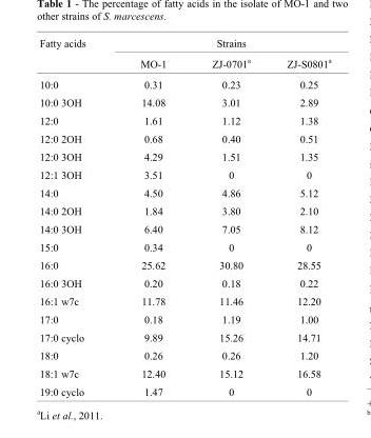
<table><thead><tr><td rowspan="2">Fatty acids</td><td colspan="3">Strains</td></tr><tr><td>MO-1</td><td>ZJ-0701<sup>a</sup></td><td>ZJ-S0801<sup>a</sup></td></tr></thead><tbody><tr><td>10:0</td><td>0.31</td><td>0.23</td><td>0.25</td></tr><tr><td>10:0 3OH</td><td>14.08</td><td>3.01</td><td>2.89</td></tr><tr><td>12:0</td><td>1.61</td><td>1.12</td><td>1.38</td></tr><tr><td>12:0 2OH</td><td>0.68</td><td>0.40</td><td>0.51</td></tr><tr><td>12:0 3OH</td><td>4.29</td><td>1.51</td><td>1.35</td></tr><tr><td>12:1 3OH</td><td>3.51</td><td>0</td><td>0</td></tr><tr><td>14:0</td><td>4.50</td><td>4.86</td><td>5.12</td></tr><tr><td>14:0 2OH</td><td>1.84</td><td>3.80</td><td>2.10</td></tr><tr><td>14:0 3OH</td><td>6.40</td><td>7.05</td><td>8.12</td></tr><tr><td>15:0</td><td>0.34</td><td>0</td><td>0</td></tr><tr><td>16:0</td><td>25.62</td><td>30.80</td><td>28.55</td></tr><tr><td>16:0 3OH</td><td>0.20</td><td>0.18</td><td>0.22</td></tr><tr><td>16:1 w7c</td><td>11.78</td><td>11.46</td><td>12.20</td></tr><tr><td>17:0</td><td>0.18</td><td>1.19</td><td>1.00</td></tr><tr><td>17:0 cyclo</td><td>9.89</td><td>15.26</td><td>14.71</td></tr><tr><td>18:0</td><td>0.26</td><td>0.26</td><td>1.20</td></tr><tr><td>18:1 w7c</td><td>12.40</td><td>15.12</td><td>16.58</td></tr><tr><td>19:0 cyclo</td><td>1.47</td><td>0</td><td>0</td></tr></tbody></table>